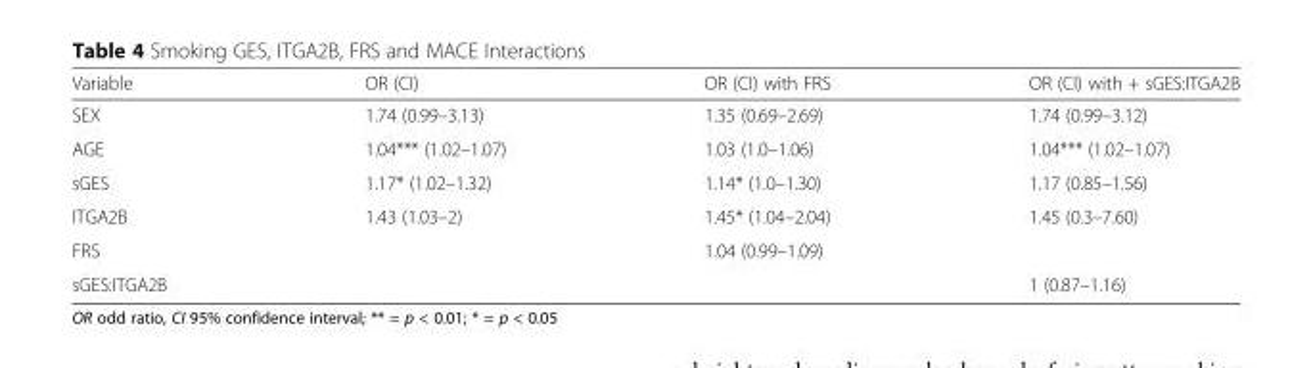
<table><thead><tr><td>Variable</td><td>OR (CI)</td><td>OR (CI) with FRS</td><td>OR (CI) with + sGES:ITGA2B</td></tr></thead><tbody><tr><td>SEX</td><td>1.74 (0.99–3.13)</td><td>1.35 (0.69–2.69)</td><td>1.74 (0.99–3.12)</td></tr><tr><td>AGE</td><td>1.04*** (1.02–1.07)</td><td>1.03 (1.0–1.06)</td><td>1.04*** (1.02–1.07)</td></tr><tr><td>sGES</td><td>1.17* (1.02–1.32)</td><td>1.14* (1.0–1.30)</td><td>1.17 (0.85–1.56)</td></tr><tr><td>ITGA2B</td><td>1.43 (1.03–2)</td><td>1.45* (1.04–2.04)</td><td>1.45 (0.3–7.60)</td></tr><tr><td>FRS</td><td></td><td>1.04 (0.99–1.09)</td><td></td></tr><tr><td>sGES:ITGA2B</td><td></td><td></td><td>1 (0.87–1.16)</td></tr></tbody></table>